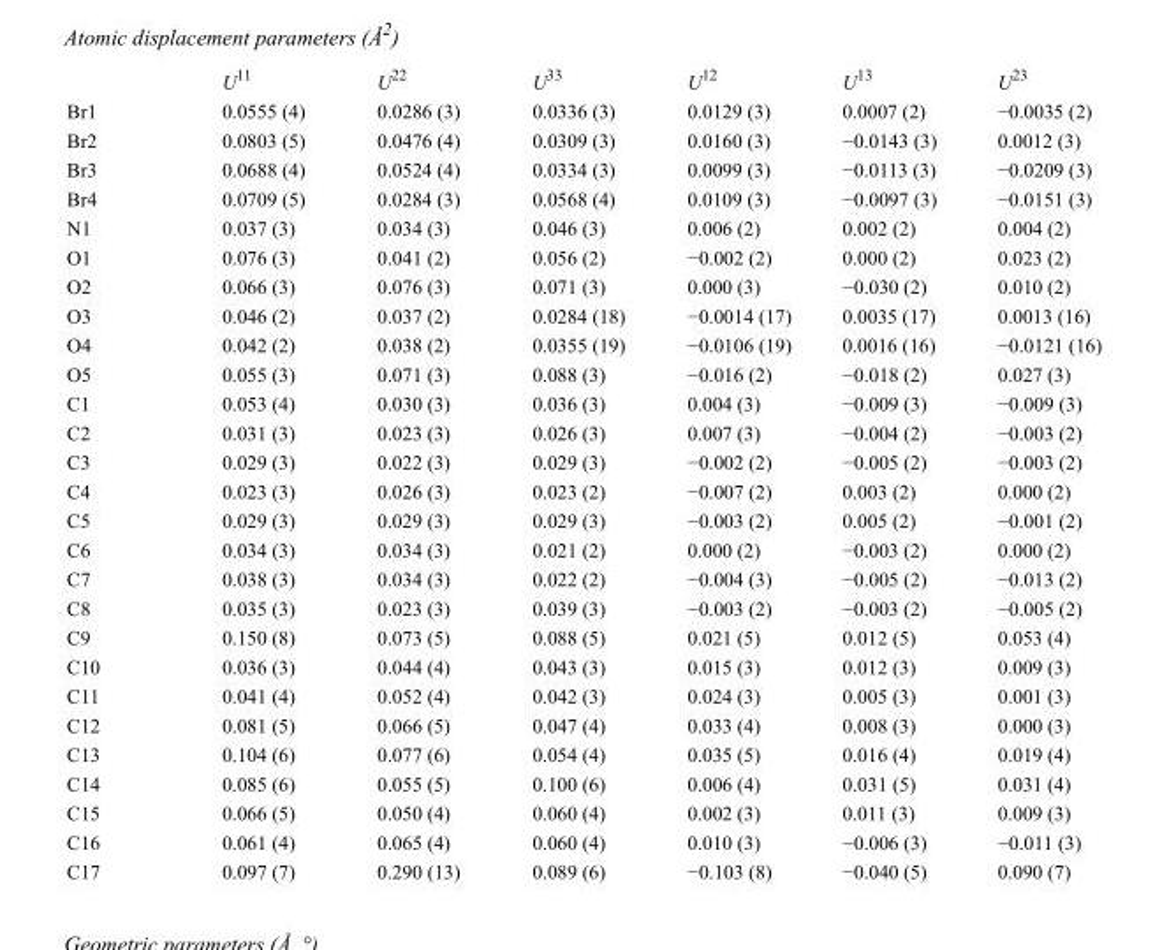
<table><thead><tr><td></td><td>U<sup>11</sup></td><td>U<sup>22</sup></td><td>U<sup>33</sup></td><td>U<sup>12</sup></td><td>U<sup>13</sup></td><td>U<sup>23</sup></td></tr></thead><tbody><tr><td>Br1</td><td>0.0555 (4)</td><td>0.0286 (3)</td><td>0.0336 (3)</td><td>0.0129 (3)</td><td>0.0007 (2)</td><td>−0.0035 (2)</td></tr><tr><td>Br2</td><td>0.0803 (5)</td><td>0.0476 (4)</td><td>0.0309 (3)</td><td>0.0160 (3)</td><td>−0.0143 (3)</td><td>0.0012 (3)</td></tr><tr><td>Br3</td><td>0.0688 (4)</td><td>0.0524 (4)</td><td>0.0334 (3)</td><td>0.0099 (3)</td><td>−0.0113 (3)</td><td>−0.0209 (3)</td></tr><tr><td>Br4</td><td>0.0709 (5)</td><td>0.0284 (3)</td><td>0.0568 (4)</td><td>0.0109 (3)</td><td>−0.0097 (3)</td><td>−0.0151 (3)</td></tr><tr><td>N1</td><td>0.037 (3)</td><td>0.034 (3)</td><td>0.046 (3)</td><td>0.006 (2)</td><td>0.002 (2)</td><td>0.004 (2)</td></tr><tr><td>O1</td><td>0.076 (3)</td><td>0.041 (2)</td><td>0.056 (2)</td><td>−0.002 (2)</td><td>0.000 (2)</td><td>0.023 (2)</td></tr><tr><td>O2</td><td>0.066 (3)</td><td>0.076 (3)</td><td>0.071 (3)</td><td>0.000 (3)</td><td>−0.030 (2)</td><td>0.010 (2)</td></tr><tr><td>O3</td><td>0.046 (2)</td><td>0.037 (2)</td><td>0.0284 (18)</td><td>−0.0014 (17)</td><td>0.0035 (17)</td><td>0.0013 (16)</td></tr><tr><td>O4</td><td>0.042 (2)</td><td>0.038 (2)</td><td>0.0355 (19)</td><td>−0.0106 (19)</td><td>0.0016 (16)</td><td>−0.0121 (16)</td></tr><tr><td>O5</td><td>0.055 (3)</td><td>0.071 (3)</td><td>0.088 (3)</td><td>−0.016 (2)</td><td>−0.018 (2)</td><td>0.027 (3)</td></tr><tr><td>C1</td><td>0.053 (4)</td><td>0.030 (3)</td><td>0.036 (3)</td><td>0.004 (3)</td><td>−0.009 (3)</td><td>−0.009 (3)</td></tr><tr><td>C2</td><td>0.031 (3)</td><td>0.023 (3)</td><td>0.026 (3)</td><td>0.007 (3)</td><td>−0.004 (2)</td><td>−0.003 (2)</td></tr><tr><td>C3</td><td>0.029 (3)</td><td>0.022 (3)</td><td>0.029 (3)</td><td>−0.002 (2)</td><td>−0.005 (2)</td><td>−0.003 (2)</td></tr><tr><td>C4</td><td>0.023 (3)</td><td>0.026 (3)</td><td>0.023 (2)</td><td>−0.007 (2)</td><td>0.003 (2)</td><td>0.000 (2)</td></tr><tr><td>C5</td><td>0.029 (3)</td><td>0.029 (3)</td><td>0.029 (3)</td><td>−0.003 (2)</td><td>0.005 (2)</td><td>−0.001 (2)</td></tr><tr><td>C6</td><td>0.034 (3)</td><td>0.034 (3)</td><td>0.021 (2)</td><td>0.000 (2)</td><td>−0.003 (2)</td><td>0.000 (2)</td></tr><tr><td>C7</td><td>0.038 (3)</td><td>0.034 (3)</td><td>0.022 (2)</td><td>−0.004 (3)</td><td>−0.005 (2)</td><td>−0.013 (2)</td></tr><tr><td>C8</td><td>0.035 (3)</td><td>0.023 (3)</td><td>0.039 (3)</td><td>−0.003 (2)</td><td>−0.003 (2)</td><td>−0.005 (2)</td></tr><tr><td>C9</td><td>0.150 (8)</td><td>0.073 (5)</td><td>0.088 (5)</td><td>0.021 (5)</td><td>0.012 (5)</td><td>0.053 (4)</td></tr><tr><td>C10</td><td>0.036 (3)</td><td>0.044 (4)</td><td>0.043 (3)</td><td>0.015 (3)</td><td>0.012 (3)</td><td>0.009 (3)</td></tr><tr><td>C11</td><td>0.041 (4)</td><td>0.052 (4)</td><td>0.042 (3)</td><td>0.024 (3)</td><td>0.005 (3)</td><td>0.001 (3)</td></tr><tr><td>C12</td><td>0.081 (5)</td><td>0.066 (5)</td><td>0.047 (4)</td><td>0.033 (4)</td><td>0.008 (3)</td><td>0.000 (3)</td></tr><tr><td>C13</td><td>0.104 (6)</td><td>0.077 (6)</td><td>0.054 (4)</td><td>0.035 (5)</td><td>0.016 (4)</td><td>0.019 (4)</td></tr><tr><td>C14</td><td>0.085 (6)</td><td>0.055 (5)</td><td>0.100 (6)</td><td>0.006 (4)</td><td>0.031 (5)</td><td>0.031 (4)</td></tr><tr><td>C15</td><td>0.066 (5)</td><td>0.050 (4)</td><td>0.060 (4)</td><td>0.002 (3)</td><td>0.011 (3)</td><td>0.009 (3)</td></tr><tr><td>C16</td><td>0.061 (4)</td><td>0.065 (4)</td><td>0.060 (4)</td><td>0.010 (3)</td><td>−0.006 (3)</td><td>−0.011 (3)</td></tr><tr><td>C17</td><td>0.097 (7)</td><td>0.290 (13)</td><td>0.089 (6)</td><td>−0.103 (8)</td><td>−0.040 (5)</td><td>0.090 (7)</td></tr></tbody></table>